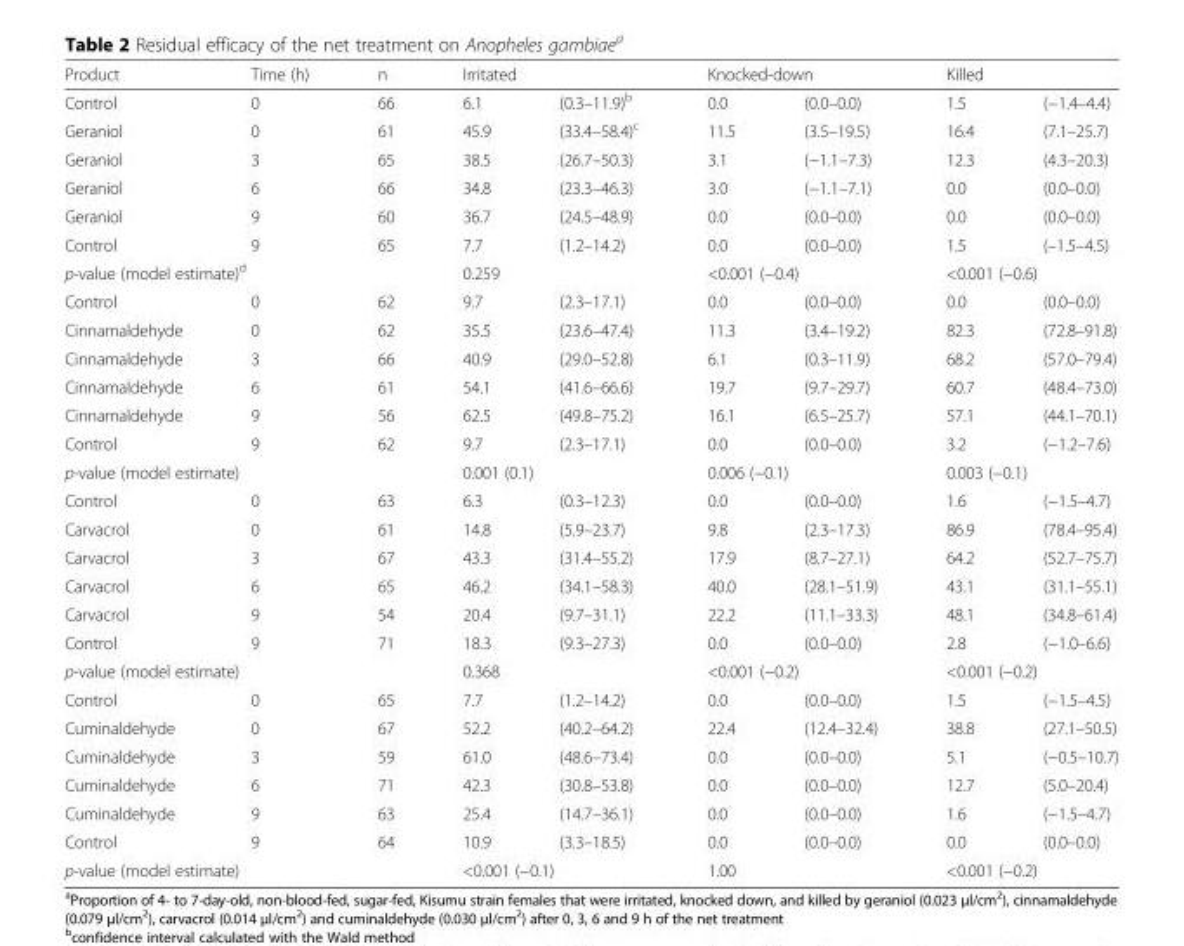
<table><thead><tr><td rowspan="2">Product Control</td><td rowspan="2">Time (h) 0</td><td rowspan="2">n 66</td><td colspan="2">Irritated</td><td colspan="2">Knocked-down</td><td colspan="2">Killed</td></tr><tr><td>6.1</td><td>(0.3–11.9)<sup>b</sup></td><td>0.0</td><td>(0.0–0.0)</td><td>1.5</td><td>(−1.4–4.4)</td></tr></thead><tbody><tr><td>Geraniol</td><td>0</td><td>61</td><td>45.9</td><td>(33.4–58.4)<sup>c</sup></td><td>11.5</td><td>(3.5–19.5)</td><td>16.4</td><td>(7.1–25.7)</td></tr><tr><td>Geraniol</td><td>3</td><td>65</td><td>38.5</td><td>(26.7–50.3)</td><td>3.1</td><td>(−1.1–7.3)</td><td>12.3</td><td>(4.3–20.3)</td></tr><tr><td>Geraniol</td><td>6</td><td>66</td><td>34.8</td><td>(23.3–46.3)</td><td>3.0</td><td>(−1.1–7.1)</td><td>0.0</td><td>(0.0–0.0)</td></tr><tr><td>Geraniol</td><td>9</td><td>60</td><td>36.7</td><td>(24.5–48.9)</td><td>0.0</td><td>(0.0–0.0)</td><td>0.0</td><td>(0.0–0.0)</td></tr><tr><td>Control</td><td>9</td><td>65</td><td>7.7</td><td>(1.2–14.2)</td><td>0.0</td><td>(0.0–0.0)</td><td>1.5</td><td>(–1.5–4.5)</td></tr><tr><td colspan="3">p-value (model estimate)<sup>d</sup></td><td colspan="2">0.259</td><td colspan="2">&lt;0.001 (−0.4)</td><td colspan="2">&lt;0.001 (−0.6)</td></tr><tr><td>Control</td><td>0</td><td>62</td><td>9.7</td><td>(2.3–17.1)</td><td>0.0</td><td>(0.0–0.0)</td><td>0.0</td><td>(0.0–0.0)</td></tr><tr><td>Cinnamaldehyde</td><td>0</td><td>62</td><td>35.5</td><td>(23.6–47.4)</td><td>11.3</td><td>(3.4–19.2)</td><td>82.3</td><td>(72.8–91.8)</td></tr><tr><td>Cinnamaldehyde</td><td>3</td><td>66</td><td>40.9</td><td>(29.0–52.8)</td><td>6.1</td><td>(0.3–11.9)</td><td>68.2</td><td>(57.0–79.4)</td></tr><tr><td>Cinnamaldehyde</td><td>6</td><td>61</td><td>54.1</td><td>(41.6–66.6)</td><td>19.7</td><td>(9.7–29.7)</td><td>60.7</td><td>(48.4–73.0)</td></tr><tr><td>Cinnamaldehyde</td><td>9</td><td>56</td><td>62.5</td><td>(49.8–75.2)</td><td>16.1</td><td>(6.5–25.7)</td><td>57.1</td><td>(44.1–70.1)</td></tr><tr><td>Control</td><td>9</td><td>62</td><td>9.7</td><td>(2.3–17.1)</td><td>0.0</td><td>(0.0–0.0)</td><td>3.2</td><td>(−1.2–7.6)</td></tr><tr><td colspan="3">p-value (model estimate)</td><td colspan="2">0.001 (0.1)</td><td colspan="2">0.006 (−0.1)</td><td colspan="2">0.003 (−0.1)</td></tr><tr><td>Control</td><td>0</td><td>63</td><td>6.3</td><td>(0.3–12.3)</td><td>0.0</td><td>(0.0–0.0)</td><td>1.6</td><td>(−1.5–4.7)</td></tr><tr><td>Carvacrol</td><td>0</td><td>61</td><td>14.8</td><td>(5.9–23.7)</td><td>9.8</td><td>(2.3–17.3)</td><td>86.9</td><td>(78.4–95.4)</td></tr><tr><td>Carvacrol</td><td>3</td><td>67</td><td>43.3</td><td>(31.4–55.2)</td><td>17.9</td><td>(8.7–27.1)</td><td>64.2</td><td>(52.7–75.7)</td></tr><tr><td>Carvacrol</td><td>6</td><td>65</td><td>46.2</td><td>(34.1–58.3)</td><td>40.0</td><td>(28.1–51.9)</td><td>43.1</td><td>(31.1–55.1)</td></tr><tr><td>Carvacrol</td><td>9</td><td>54</td><td>20.4</td><td>(9.7–31.1)</td><td>22.2</td><td>(11.1–33.3)</td><td>48.1</td><td>(34.8–61.4)</td></tr><tr><td>Control</td><td>9</td><td>71</td><td>18.3</td><td>(9.3–27.3)</td><td>0.0</td><td>(0.0–0.0)</td><td>2.8</td><td>(−1.0–6.6)</td></tr><tr><td colspan="3">p-value (model estimate)</td><td colspan="2">0.368</td><td colspan="2">&lt;0.001 (−0.2)</td><td colspan="2">&lt;0.001 (−0.2)</td></tr><tr><td>Control</td><td>0</td><td>65</td><td>7.7</td><td>(1.2–14.2)</td><td>0.0</td><td>(0.0–0.0)</td><td>1.5</td><td>(−1.5–4.5)</td></tr><tr><td>Cuminaldehyde</td><td>0</td><td>67</td><td>52.2</td><td>(40.2–64.2)</td><td>22.4</td><td>(12.4–32.4)</td><td>38.8</td><td>(27.1–50.5)</td></tr><tr><td>Cuminaldehyde</td><td>3</td><td>59</td><td>61.0</td><td>(48.6–73.4)</td><td>0.0</td><td>(0.0–0.0)</td><td>5.1</td><td>(−0.5–10.7)</td></tr><tr><td>Cuminaldehyde</td><td>6</td><td>71</td><td>42.3</td><td>(30.8–53.8)</td><td>0.0</td><td>(0.0–0.0)</td><td>12.7</td><td>(5.0–20.4)</td></tr><tr><td>Cuminaldehyde</td><td>9</td><td>63</td><td>25.4</td><td>(14.7–36.1)</td><td>0.0</td><td>(0.0–0.0)</td><td>1.6</td><td>(−1.5–4.7)</td></tr><tr><td>Control</td><td>9</td><td>64</td><td>10.9</td><td>(3.3–18.5)</td><td>0.0</td><td>(0.0–0.0)</td><td>0.0</td><td>(0.0–0.0)</td></tr><tr><td colspan="3">p-value (model estimate)</td><td colspan="2">&lt;0.001 (−0.1)</td><td colspan="2">1.00</td><td colspan="2">&lt;0.001 (−0.2)</td></tr></tbody></table>